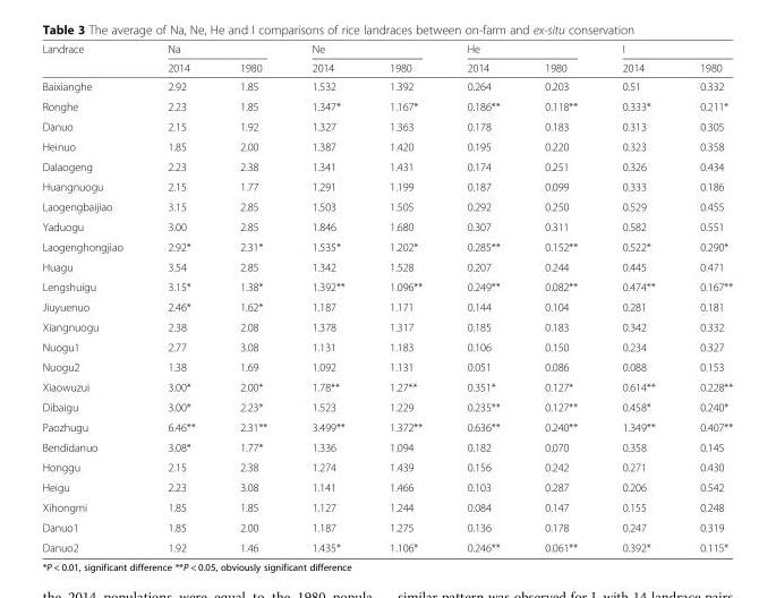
<table><thead><tr><td rowspan="2">Landrace</td><td colspan="2">Na</td><td colspan="2">Ne</td><td colspan="2">He</td><td colspan="2">I</td></tr><tr><td>2014</td><td>1980</td><td>2014</td><td>1980</td><td>2014</td><td>1980</td><td>2014</td><td>1980</td></tr></thead><tbody><tr><td>Baixianghe</td><td>2.92</td><td>1.85</td><td>1.532</td><td>1.392</td><td>0.264</td><td>0.203</td><td>0.51</td><td>0.332</td></tr><tr><td>Ronghe</td><td>2.23</td><td>1.85</td><td>1.347*</td><td>1.167*</td><td>0.186**</td><td>0.118**</td><td>0.333*</td><td>0.211*</td></tr><tr><td>Danuo</td><td>2.15</td><td>1.92</td><td>1.327</td><td>1.363</td><td>0.178</td><td>0.183</td><td>0.313</td><td>0.305</td></tr><tr><td>Heinuo</td><td>1.85</td><td>2.00</td><td>1.387</td><td>1.420</td><td>0.195</td><td>0.220</td><td>0.323</td><td>0.358</td></tr><tr><td>Dalaogeng</td><td>2.23</td><td>2.38</td><td>1.341</td><td>1.431</td><td>0.174</td><td>0.251</td><td>0.326</td><td>0.434</td></tr><tr><td>Huangnuogu</td><td>2.15</td><td>1.77</td><td>1.291</td><td>1.199</td><td>0.187</td><td>0.099</td><td>0.333</td><td>0.186</td></tr><tr><td>Laogengbaijiao</td><td>3.15</td><td>2.85</td><td>1.503</td><td>1.505</td><td>0.292</td><td>0.250</td><td>0.529</td><td>0.455</td></tr><tr><td>Yaduogu</td><td>3.00</td><td>2.85</td><td>1.846</td><td>1.680</td><td>0.307</td><td>0.311</td><td>0.582</td><td>0.551</td></tr><tr><td>Laogenghongjiao</td><td>2.92*</td><td>2.31*</td><td>1.535*</td><td>1.202*</td><td>0.285**</td><td>0.152**</td><td>0.522*</td><td>0.290*</td></tr><tr><td>Huagu</td><td>3.54</td><td>2.85</td><td>1.342</td><td>1.528</td><td>0.207</td><td>0.244</td><td>0.445</td><td>0.471</td></tr><tr><td>Lengshuigu</td><td>3.15*</td><td>1.38*</td><td>1.392**</td><td>1.096**</td><td>0.249**</td><td>0.082**</td><td>0.474**</td><td>0.167**</td></tr><tr><td>Jiuyuenuo</td><td>2.46*</td><td>1.62*</td><td>1.187</td><td>1.171</td><td>0.144</td><td>0.104</td><td>0.281</td><td>0.181</td></tr><tr><td>Xiangnuogu</td><td>2.38</td><td>2.08</td><td>1.378</td><td>1.317</td><td>0.185</td><td>0.183</td><td>0.342</td><td>0.332</td></tr><tr><td>Nuogu1</td><td>2.77</td><td>3.08</td><td>1.131</td><td>1.183</td><td>0.106</td><td>0.150</td><td>0.234</td><td>0.327</td></tr><tr><td>Nuogu2</td><td>1.38</td><td>1.69</td><td>1.092</td><td>1.131</td><td>0.051</td><td>0.086</td><td>0.088</td><td>0.153</td></tr><tr><td>Xiaowuzui</td><td>3.00*</td><td>2.00*</td><td>1.78**</td><td>1.27**</td><td>0.351*</td><td>0.127*</td><td>0.614**</td><td>0.228**</td></tr><tr><td>Dibaigu</td><td>3.00*</td><td>2.23*</td><td>1.523</td><td>1.229</td><td>0.235**</td><td>0.127**</td><td>0.458*</td><td>0.240*</td></tr><tr><td>Paozhugu</td><td>6.46**</td><td>2.31**</td><td>3.499**</td><td>1.372**</td><td>0.636**</td><td>0.240**</td><td>1.349**</td><td>0.407**</td></tr><tr><td>Bendidanuo</td><td>3.08*</td><td>1.77*</td><td>1.336</td><td>1.094</td><td>0.182</td><td>0.070</td><td>0.358</td><td>0.145</td></tr><tr><td>Honggu</td><td>2.15</td><td>2.38</td><td>1.274</td><td>1.439</td><td>0.156</td><td>0.242</td><td>0.271</td><td>0.430</td></tr><tr><td>Heigu</td><td>2.23</td><td>3.08</td><td>1.141</td><td>1.466</td><td>0.103</td><td>0.287</td><td>0.206</td><td>0.542</td></tr><tr><td>Xihongmi</td><td>1.85</td><td>1.85</td><td>1.127</td><td>1.244</td><td>0.084</td><td>0.147</td><td>0.155</td><td>0.248</td></tr><tr><td>Danuo1</td><td>1.85</td><td>2.00</td><td>1.187</td><td>1.275</td><td>0.136</td><td>0.178</td><td>0.247</td><td>0.319</td></tr><tr><td>Danuo2</td><td>1.92</td><td>1.46</td><td>1.435*</td><td>1.106*</td><td>0.246**</td><td>0.061**</td><td>0.392*</td><td>0.115*</td></tr></tbody></table>